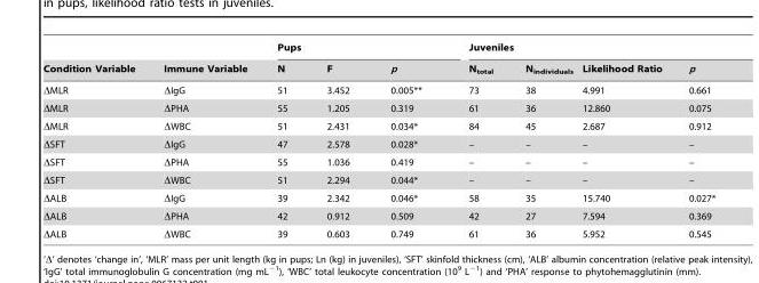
<table><thead><tr><td rowspan="2">Condition Variable</td><td rowspan="2">Immune Variable</td><td colspan="3">Pups</td><td colspan="4">Juveniles</td></tr><tr><td>N</td><td>F</td><td>p</td><td>N<sub>total</sub></td><td>N<sub>individuals</sub></td><td>Likelihood Ratio</td><td>p</td></tr></thead><tbody><tr><td>ΔMLR</td><td>ΔIgG</td><td>51</td><td>3.452</td><td>0.005**</td><td>73</td><td>38</td><td>4.991</td><td>0.661</td></tr><tr><td>ΔMLR</td><td>ΔPHA</td><td>55</td><td>1.205</td><td>0.319</td><td>61</td><td>36</td><td>12.860</td><td>0.075</td></tr><tr><td>ΔMLR</td><td>ΔWBC</td><td>51</td><td>2.431</td><td>0.034*</td><td>84</td><td>45</td><td>2.687</td><td>0.912</td></tr><tr><td>ΔSFT</td><td>ΔIgG</td><td>47</td><td>2.578</td><td>0.028*</td><td>–</td><td>–</td><td>–</td><td>–</td></tr><tr><td>ΔSFT</td><td>ΔPHA</td><td>55</td><td>1.036</td><td>0.419</td><td>–</td><td>–</td><td>–</td><td>–</td></tr><tr><td>ΔSFT</td><td>ΔWBC</td><td>51</td><td>2.294</td><td>0.044*</td><td>–</td><td>–</td><td>–</td><td>–</td></tr><tr><td>ΔALB</td><td>ΔIgG</td><td>39</td><td>2.342</td><td>0.046*</td><td>58</td><td>35</td><td>15.740</td><td>0.027*</td></tr><tr><td>ΔALB</td><td>ΔPHA</td><td>42</td><td>0.912</td><td>0.509</td><td>42</td><td>27</td><td>7.594</td><td>0.369</td></tr><tr><td>ΔALB</td><td>ΔWBC</td><td>39</td><td>0.603</td><td>0.749</td><td>61</td><td>36</td><td>5.952</td><td>0.545</td></tr></tbody></table>